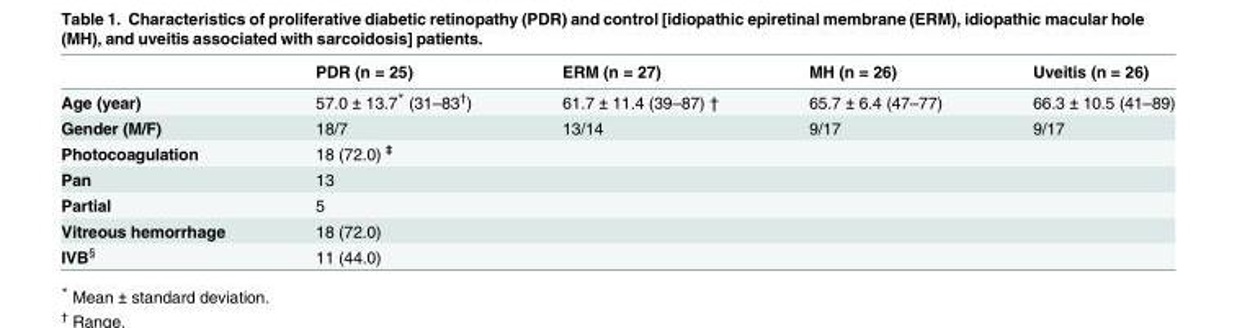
<table><thead><tr><td></td><td>PDR (n = 25)</td><td>ERM (n = 27)</td><td>MH (n = 26)</td><td>Uveitis (n = 26)</td></tr></thead><tbody><tr><td>Age (year)</td><td>57.0 ± 13.7* (31–83<sup>†</sup>)</td><td>61.7 ± 11.4 (39–87) †</td><td>65.7 ± 6.4 (47–77)</td><td>66.3 ± 10.5 (41–89)</td></tr><tr><td>Gender (M/F)</td><td>18/7</td><td>13/14</td><td>9/17</td><td>9/17</td></tr><tr><td>Photocoagulation</td><td>18 (72.0) <sup>‡</sup></td><td></td><td></td><td></td></tr><tr><td>Pan</td><td>13</td><td></td><td></td><td></td></tr><tr><td>Partial</td><td>5</td><td></td><td></td><td></td></tr><tr><td>Vitreous hemorrhage</td><td>18 (72.0)</td><td></td><td></td><td></td></tr><tr><td>IVB<sup>§</sup></td><td>11 (44.0)</td><td></td><td></td><td></td></tr></tbody></table>